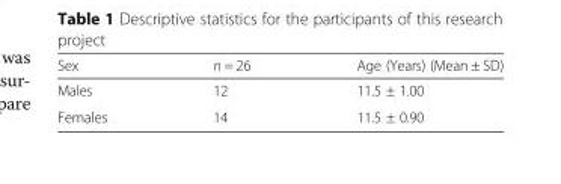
<table><thead><tr><td>Sex</td><td>n = 26</td><td>Age (Years) (Mean ± SD)</td></tr></thead><tbody><tr><td>Males</td><td>12</td><td>11.5 ± 1.00</td></tr><tr><td>Females</td><td>14</td><td>11.5 ± 0.90</td></tr></tbody></table>